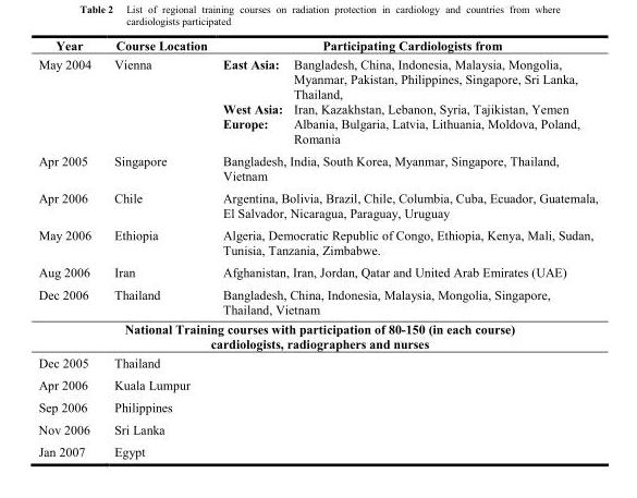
<table><thead><tr><td>Year</td><td>Course Location</td><td>Participating Cardiologists from</td></tr></thead><tbody><tr><td>May 2004</td><td>Vienna</td><td>East Asia: Bangladesh, China, Indonesia, Malaysia, Mongolia, Myanmar, Pakistan, Philippines, Singapore, Sri Lanka, Thailand, West Asia: Iran, Kazakhstan, Lebanon, Syria, Tajikistan, Yemen Europe: Albania, Bulgaria, Latvia, Lithuania, Moldova, Poland, Romania</td></tr><tr><td>Apr 2005</td><td>Singapore</td><td>Bangladesh, India, South Korea, Myanmar, Singapore, Thailand, Vietnam</td></tr><tr><td>Apr 2006</td><td>Chile</td><td>Argentina, Bolivia, Brazil, Chile, Columbia, Cuba, Ecuador, Guatemala, El Salvador, Nicaragua, Paraguay, Uruguay</td></tr><tr><td>May 2006</td><td>Ethiopia</td><td>Algeria, Democratic Republic of Congo, Ethiopia, Kenya, Mali, Sudan, Tunisia, Tanzania, Zimbabwe.</td></tr><tr><td>Aug 2006</td><td>Iran</td><td>Afghanistan, Iran, Jordan, Qatar and United Arab Emirates (UAE)</td></tr><tr><td>Dec 2006</td><td>Thailand</td><td>Bangladesh, China, Indonesia, Malaysia, Mongolia, Singapore, Thailand, Vietnam</td></tr><tr><td colspan="3">National Training courses with participation of 80-150 (in each course) cardiologists, radiographers and nurses</td></tr><tr><td>Dec 2005</td><td colspan="2">Thailand</td></tr><tr><td>Apr 2006</td><td colspan="2">Kuala Lumpur</td></tr><tr><td>Sep 2006</td><td colspan="2">Philippines</td></tr><tr><td>Nov 2006</td><td colspan="2">Sri Lanka</td></tr><tr><td>Jan 2007</td><td colspan="2">Egypt</td></tr></tbody></table>